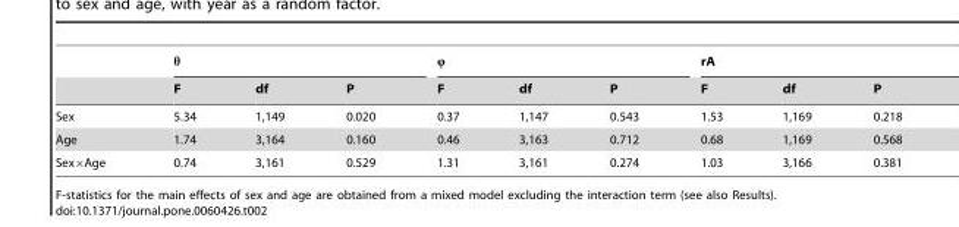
<table><thead><tr><td rowspan="2"></td><td colspan="3">θ</td><td colspan="3">φ</td><td colspan="3">rA</td></tr><tr><td>F</td><td>df</td><td>P</td><td>F</td><td>df</td><td>P</td><td>F</td><td>df</td><td>P</td></tr></thead><tbody><tr><td>Sex</td><td>5.34</td><td>1,149</td><td>0.020</td><td>0.37</td><td>1,147</td><td>0.543</td><td>1.53</td><td>1,169</td><td>0.218</td></tr><tr><td>Age</td><td>1.74</td><td>3,164</td><td>0.160</td><td>0.46</td><td>3,163</td><td>0.712</td><td>0.68</td><td>1,169</td><td>0.568</td></tr><tr><td>Sex×Age</td><td>0.74</td><td>3,161</td><td>0.529</td><td>1.31</td><td>3,161</td><td>0.274</td><td>1.03</td><td>3,166</td><td>0.381</td></tr></tbody></table>